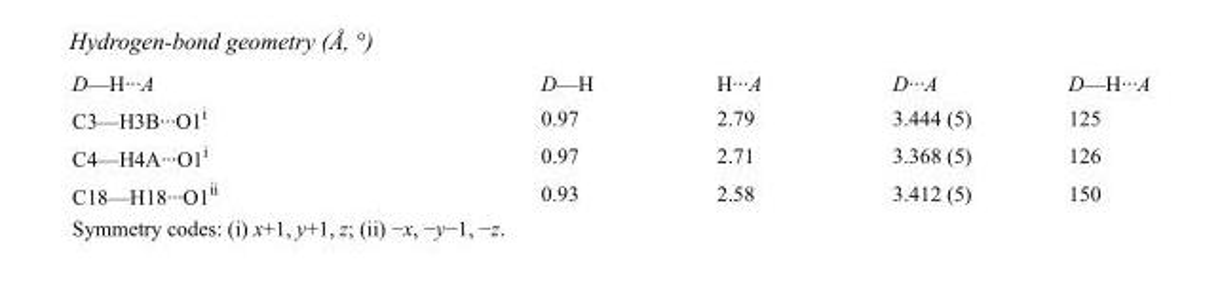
<table><tbody><tr><td>D—H···A</td><td>D—H</td><td>H···A</td><td>D···A</td><td>D—H···A</td></tr><tr><td>C3—H3B···O1<sup>i</sup></td><td>0.97</td><td>2.79</td><td>3.444 (5)</td><td>125</td></tr><tr><td>C4—H4A···O1<sup>i</sup></td><td>0.97</td><td>2.71</td><td>3.368 (5)</td><td>126</td></tr><tr><td>C18—H18···O1<sup>ii</sup></td><td>0.93</td><td>2.58</td><td>3.412 (5)</td><td>150</td></tr></tbody></table>